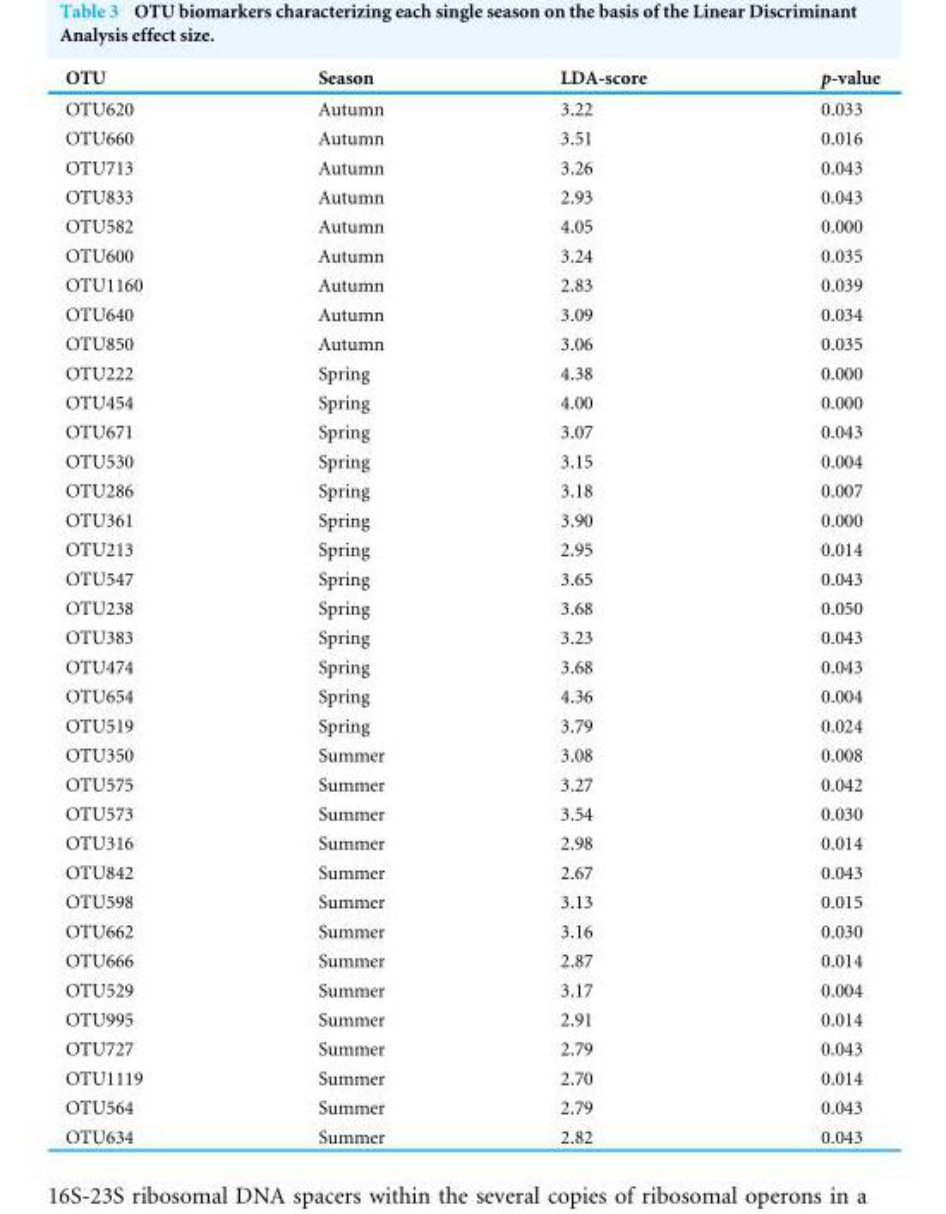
<table><thead><tr><td>OTU</td><td>Season</td><td>LDA-score</td><td>p-value</td></tr></thead><tbody><tr><td>OTU620</td><td>Autumn</td><td>3.22</td><td>0.033</td></tr><tr><td>OTU660</td><td>Autumn</td><td>3.51</td><td>0.016</td></tr><tr><td>OTU713</td><td>Autumn</td><td>3.26</td><td>0.043</td></tr><tr><td>OTU833</td><td>Autumn</td><td>2.93</td><td>0.043</td></tr><tr><td>OTU582</td><td>Autumn</td><td>4.05</td><td>0.000</td></tr><tr><td>OTU600</td><td>Autumn</td><td>3.24</td><td>0.035</td></tr><tr><td>OTU1160</td><td>Autumn</td><td>2.83</td><td>0.039</td></tr><tr><td>OTU640</td><td>Autumn</td><td>3.09</td><td>0.034</td></tr><tr><td>OTU850</td><td>Autumn</td><td>3.06</td><td>0.035</td></tr><tr><td>OTU222</td><td>Spring</td><td>4.38</td><td>0.000</td></tr><tr><td>OTU454</td><td>Spring</td><td>4.00</td><td>0.000</td></tr><tr><td>OTU671</td><td>Spring</td><td>3.07</td><td>0.043</td></tr><tr><td>OTU530</td><td>Spring</td><td>3.15</td><td>0.004</td></tr><tr><td>OTU286</td><td>Spring</td><td>3.18</td><td>0.007</td></tr><tr><td>OTU361</td><td>Spring</td><td>3.90</td><td>0.000</td></tr><tr><td>OTU213</td><td>Spring</td><td>2.95</td><td>0.014</td></tr><tr><td>OTU547</td><td>Spring</td><td>3.65</td><td>0.043</td></tr><tr><td>OTU238</td><td>Spring</td><td>3.68</td><td>0.050</td></tr><tr><td>OTU383</td><td>Spring</td><td>3.23</td><td>0.043</td></tr><tr><td>OTU474</td><td>Spring</td><td>3.68</td><td>0.043</td></tr><tr><td>OTU654</td><td>Spring</td><td>4.36</td><td>0.004</td></tr><tr><td>OTU519</td><td>Spring</td><td>3.79</td><td>0.024</td></tr><tr><td>OTU350</td><td>Summer</td><td>3.08</td><td>0.008</td></tr><tr><td>OTU575</td><td>Summer</td><td>3.27</td><td>0.042</td></tr><tr><td>OTU573</td><td>Summer</td><td>3.54</td><td>0.030</td></tr><tr><td>OTU316</td><td>Summer</td><td>2.98</td><td>0.014</td></tr><tr><td>OTU842</td><td>Summer</td><td>2.67</td><td>0.043</td></tr><tr><td>OTU598</td><td>Summer</td><td>3.13</td><td>0.015</td></tr><tr><td>OTU662</td><td>Summer</td><td>3.16</td><td>0.030</td></tr><tr><td>OTU666</td><td>Summer</td><td>2.87</td><td>0.014</td></tr><tr><td>OTU529</td><td>Summer</td><td>3.17</td><td>0.004</td></tr><tr><td>OTU995</td><td>Summer</td><td>2.91</td><td>0.014</td></tr><tr><td>OTU727</td><td>Summer</td><td>2.79</td><td>0.043</td></tr><tr><td>OTU1119</td><td>Summer</td><td>2.70</td><td>0.014</td></tr><tr><td>OTU564</td><td>Summer</td><td>2.79</td><td>0.043</td></tr><tr><td>OTU634</td><td>Summer</td><td>2.82</td><td>0.043</td></tr></tbody></table>